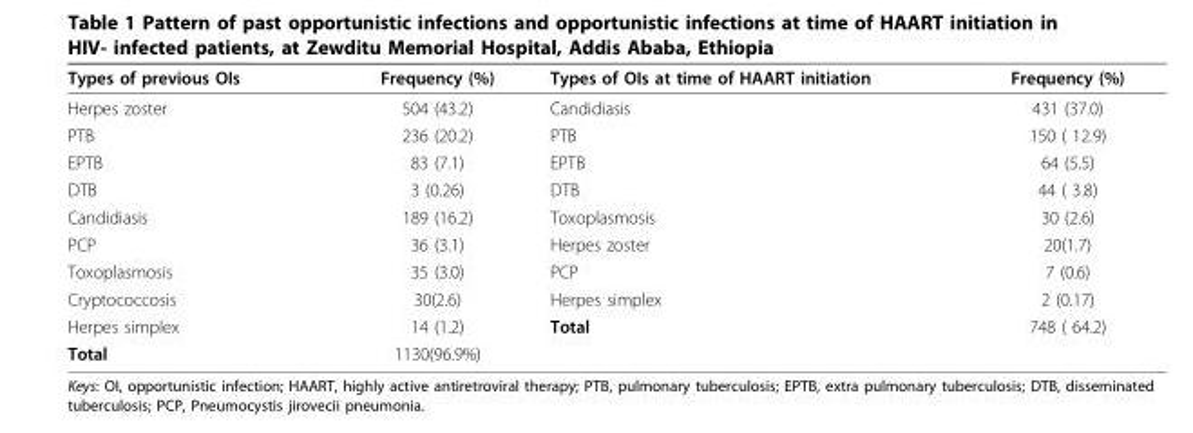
<table><thead><tr><td>Types of previous OIs</td><td>Frequency (%)</td><td>Types of OIs at time of HAART initiation</td><td>Frequency (%)</td></tr></thead><tbody><tr><td>Herpes zoster</td><td>504 (43.2)</td><td>Candidiasis</td><td>431 (37.0)</td></tr><tr><td>PTB</td><td>236 (20.2)</td><td>PTB</td><td>150 ( 12.9)</td></tr><tr><td>EPTB</td><td>83 (7.1)</td><td>EPTB</td><td>64 (5.5)</td></tr><tr><td>DTB</td><td>3 (0.26)</td><td>DTB</td><td>44 ( 3.8)</td></tr><tr><td>Candidiasis</td><td>189 (16.2)</td><td>Toxoplasmosis</td><td>30 (2.6)</td></tr><tr><td>PCP</td><td>36 (3.1)</td><td>Herpes zoster</td><td>20(1.7)</td></tr><tr><td>Toxoplasmosis</td><td>35 (3.0)</td><td>PCP</td><td>7 (0.6)</td></tr><tr><td>Cryptococcosis</td><td>30(2.6)</td><td>Herpes simplex</td><td>2 (0.17)</td></tr><tr><td>Herpes simplex</td><td>14 (1.2)</td><td>Total</td><td>748 ( 64.2)</td></tr><tr><td>Total</td><td>1130(96.9%)</td><td></td><td></td></tr></tbody></table>